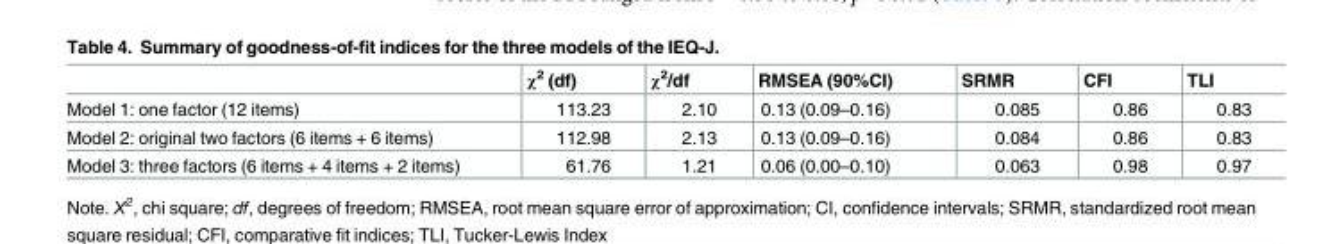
<table><thead><tr><td></td><td>χ<sup>2</sup> (df)</td><td>χ<sup>2</sup>/df</td><td>RMSEA (90%CI)</td><td>SRMR</td><td>CFI</td><td>TLI</td></tr></thead><tbody><tr><td>Model 1: one factor (12 items)</td><td>113.23</td><td>2.10</td><td>0.13 (0.09–0.16)</td><td>0.085</td><td>0.86</td><td>0.83</td></tr><tr><td>Model 2: original two factors (6 items + 6 items)</td><td>112.98</td><td>2.13</td><td>0.13 (0.09–0.16)</td><td>0.084</td><td>0.86</td><td>0.83</td></tr><tr><td>Model 3: three factors (6 items + 4 items + 2 items)</td><td>61.76</td><td>1.21</td><td>0.06 (0.00–0.10)</td><td>0.063</td><td>0.98</td><td>0.97</td></tr></tbody></table>